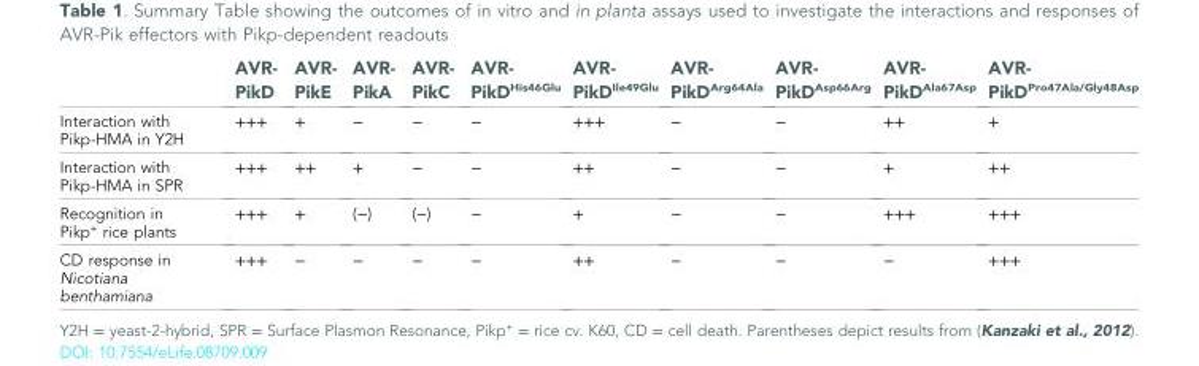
<table><thead><tr><td></td><td>AVR- PikD</td><td>AVR- PikE</td><td>AVR- PikA</td><td>AVR- PikC</td><td>AVR- PikD<sup>His46Glu</sup></td><td>AVR- PikD<sup>Ile49Glu</sup></td><td>AVR- PikD<sup>Arg64Ala</sup></td><td>AVR- PikD<sup>Asp66Arg</sup></td><td>AVR- PikD<sup>Ala67Asp</sup></td><td>AVR- PikD<sup>Pro47Ala/Gly48Asp</sup></td></tr></thead><tbody><tr><td>Interaction with Pikp-HMA in Y2H</td><td>+++</td><td>+</td><td>−</td><td>−</td><td>−</td><td>+++</td><td>−</td><td>−</td><td>++</td><td>+</td></tr><tr><td>Interaction with Pikp-HMA in SPR</td><td>+++</td><td>++</td><td>+</td><td>−</td><td>−</td><td>++</td><td>−</td><td>−</td><td>+</td><td>++</td></tr><tr><td>Recognition in Pikp<sup>+</sup> rice plants</td><td>+++</td><td>+</td><td>(−)</td><td>(−)</td><td>−</td><td>+</td><td>−</td><td>−</td><td>+++</td><td>+++</td></tr><tr><td>CD response in Nicotiana benthamiana</td><td>+++</td><td>−</td><td>−</td><td>−</td><td>−</td><td>++</td><td>−</td><td>−</td><td>−</td><td>+++</td></tr></tbody></table>